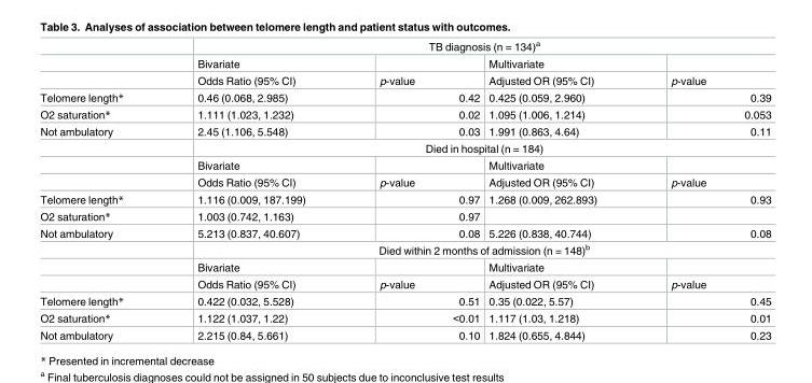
<table><thead><tr><td rowspan="2"></td><td colspan="4">TB diagnosis (n = 134)<sup>a</sup></td></tr><tr><td>Bivariate</td><td></td><td>Multivariate</td><td></td></tr></thead><tbody><tr><td></td><td>Odds Ratio (95% CI)</td><td>p-value</td><td>Adjusted OR (95% CI)</td><td>p-value</td></tr><tr><td>Telomere length*</td><td>0.46 (0.068, 2.985)</td><td>0.42</td><td>0.425 (0.059, 2.960)</td><td>0.39</td></tr><tr><td>O2 saturation*</td><td>1.111 (1.023, 1.232)</td><td>0.02</td><td>1.095 (1.006, 1.214)</td><td>0.053</td></tr><tr><td rowspan="4">Not ambulatory</td><td>2.45 (1.106, 5.548)</td><td>0.03</td><td>1.991 (0.863, 4.64)</td><td>0.11</td></tr><tr><td colspan="4">Died in hospital (n = 184)</td></tr><tr><td>Bivariate</td><td></td><td>Multivariate</td><td></td></tr><tr><td>Odds Ratio (95% CI)</td><td>p-value</td><td>Adjusted OR (95% CI)</td><td>p-value</td></tr><tr><td>Telomere length*</td><td>1.116 (0.009, 187.199)</td><td>0.97</td><td>1.268 (0.009, 262.893)</td><td>0.93</td></tr><tr><td>O2 saturation*</td><td>1.003 (0.742, 1.163)</td><td>0.97</td><td></td><td></td></tr><tr><td rowspan="4">Not ambulatory</td><td>5.213 (0.837, 40.607)</td><td>0.08</td><td>5.226 (0.838, 40.744)</td><td>0.08</td></tr><tr><td colspan="4">Died within 2 months of admission (n = 148)<sup>b</sup></td></tr><tr><td>Bivariate</td><td></td><td>Multivariate</td><td></td></tr><tr><td>Odds Ratio (95% CI)</td><td>p-value</td><td>Adjusted OR (95% CI)</td><td>p-value</td></tr><tr><td>Telomere length*</td><td>0.422 (0.032, 5.528)</td><td>0.51</td><td>0.35 (0.022, 5.57)</td><td>0.45</td></tr><tr><td>O2 saturation*</td><td>1.122 (1.037, 1.22)</td><td>&lt;0.01</td><td>1.117 (1.03, 1.218)</td><td>0.01</td></tr><tr><td>Not ambulatory</td><td>2.215 (0.84, 5.661)</td><td>0.10</td><td>1.824 (0.655, 4.844)</td><td>0.23</td></tr></tbody></table>